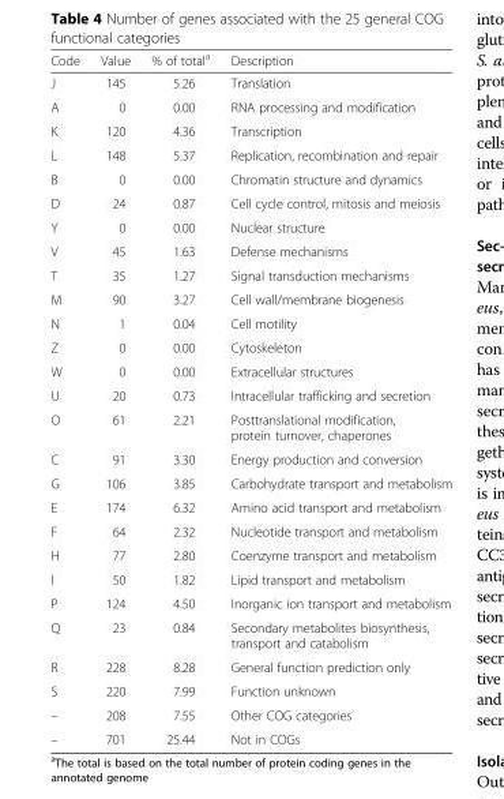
<table><thead><tr><td>Code</td><td>Value</td><td>% of total<sup>a</sup></td><td>Description</td></tr></thead><tbody><tr><td>J</td><td>145</td><td>5.26</td><td>Translation</td></tr><tr><td>A</td><td>0</td><td>0.00</td><td>RNA processing and modification</td></tr><tr><td>K</td><td>120</td><td>4.36</td><td>Transcription</td></tr><tr><td>L</td><td>148</td><td>5.37</td><td>Replication, recombination and repair</td></tr><tr><td>B</td><td>0</td><td>0.00</td><td>Chromatin structure and dynamics</td></tr><tr><td>D</td><td>24</td><td>0.87</td><td>Cell cycle control, mitosis and meiosis</td></tr><tr><td>Y</td><td>0</td><td>0.00</td><td>Nuclear structure</td></tr><tr><td>V</td><td>45</td><td>1.63</td><td>Defense mechanisms</td></tr><tr><td>T</td><td>35</td><td>1.27</td><td>Signal transduction mechanisms</td></tr><tr><td>M</td><td>90</td><td>3.27</td><td>Cell wall/membrane biogenesis</td></tr><tr><td>N</td><td>1</td><td>0.04</td><td>Cell motility</td></tr><tr><td>Z</td><td>0</td><td>0.00</td><td>Cytoskeleton</td></tr><tr><td>W</td><td>0</td><td>0.00</td><td>Extracellular structures</td></tr><tr><td>U</td><td>20</td><td>0.73</td><td>Intracellular trafficking and secretion</td></tr><tr><td>O</td><td>61</td><td>2.21</td><td>Posttranslational modification, protein turnover, chaperones</td></tr><tr><td>C</td><td>91</td><td>3.30</td><td>Energy production and conversion</td></tr><tr><td>G</td><td>106</td><td>3.85</td><td>Carbohydrate transport and metabolism</td></tr><tr><td>E</td><td>174</td><td>6.32</td><td>Amino acid transport and metabolism</td></tr><tr><td>F</td><td>64</td><td>2.32</td><td>Nucleotide transport and metabolism</td></tr><tr><td>H</td><td>77</td><td>2.80</td><td>Coenzyme transport and metabolism</td></tr><tr><td>I</td><td>50</td><td>1.82</td><td>Lipid transport and metabolism</td></tr><tr><td>P</td><td>124</td><td>4.50</td><td>Inorganic ion transport and metabolism</td></tr><tr><td>Q</td><td>23</td><td>0.84</td><td>Secondary metabolites biosynthesis, transport and catabolism</td></tr><tr><td>R</td><td>228</td><td>8.28</td><td>General function prediction only</td></tr><tr><td>S</td><td>220</td><td>7.99</td><td>Function unknown</td></tr><tr><td>–</td><td>208</td><td>7.55</td><td>Other COG categories</td></tr><tr><td>–</td><td>701</td><td>25.44</td><td>Not in COGs</td></tr></tbody></table>